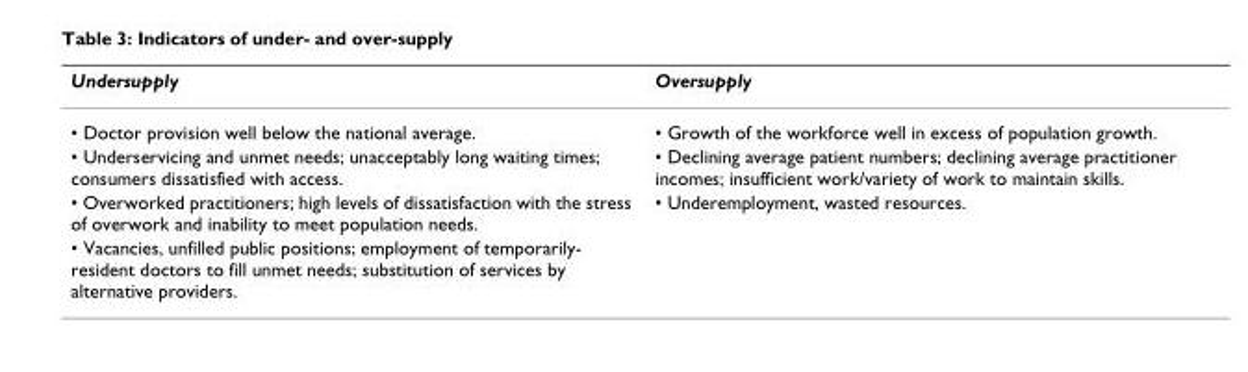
<table><thead><tr><td>Undersupply</td><td>Oversupply</td></tr></thead><tbody><tr><td>• Doctor provision well below the national average.</td><td>• Growth of the workforce well in excess of population growth.</td></tr><tr><td>• Underservicing and unmet needs; unacceptably long waiting times; consumers dissatisfied with access.</td><td>• Declining average patient numbers; declining average practitioner incomes; insufficient work/variety of work to maintain skills.</td></tr><tr><td>• Overworked practitioners; high levels of dissatisfaction with the stress of overwork and inability to meet population needs.</td><td>• Underemployment, wasted resources.</td></tr><tr><td>• Vacancies, unfilled public positions; employment of temporarily- resident doctors to fill unmet needs; substitution of services by alternative providers.</td><td></td></tr></tbody></table>